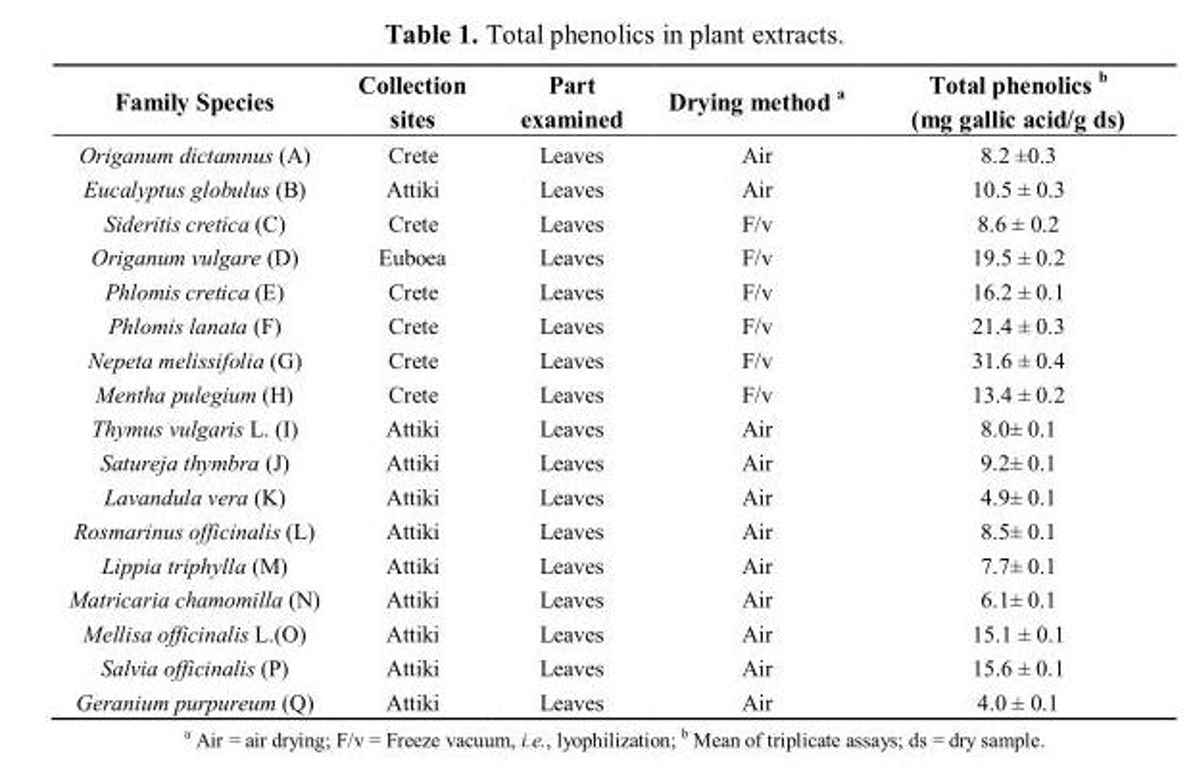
<table><thead><tr><td>Family Species</td><td>Collection sites</td><td>Part examined</td><td>Drying method <sup>a</sup></td><td>Total phenolics <sup>b</sup> (mg gallic acid/g ds)</td></tr></thead><tbody><tr><td>Origanum dictamnus (A)</td><td>Crete</td><td>Leaves</td><td>Air</td><td>8.2 ±0.3</td></tr><tr><td>Eucalyptus globulus (B)</td><td>Attiki</td><td>Leaves</td><td>Air</td><td>10.5 ± 0.3</td></tr><tr><td>Sideritis cretica (C)</td><td>Crete</td><td>Leaves</td><td>F/v</td><td>8.6 ± 0.2</td></tr><tr><td>Origanum vulgare (D)</td><td>Euboea</td><td>Leaves</td><td>F/v</td><td>19.5 ± 0.2</td></tr><tr><td>Phlomis cretica (E)</td><td>Crete</td><td>Leaves</td><td>F/v</td><td>16.2 ± 0.1</td></tr><tr><td>Phlomis lanata (F)</td><td>Crete</td><td>Leaves</td><td>F/v</td><td>21.4 ± 0.3</td></tr><tr><td>Nepeta melissifolia (G)</td><td>Crete</td><td>Leaves</td><td>F/v</td><td>31.6 ± 0.4</td></tr><tr><td>Mentha pulegium (H)</td><td>Crete</td><td>Leaves</td><td>F/v</td><td>13.4 ± 0.2</td></tr><tr><td>Thymus vulgaris L. (I)</td><td>Attiki</td><td>Leaves</td><td>Air</td><td>8.0± 0.1</td></tr><tr><td>Satureja thymbra (J)</td><td>Attiki</td><td>Leaves</td><td>Air</td><td>9.2± 0.1</td></tr><tr><td>Lavandula vera (K)</td><td>Attiki</td><td>Leaves</td><td>Air</td><td>4.9± 0.1</td></tr><tr><td>Rosmarinus officinalis (L)</td><td>Attiki</td><td>Leaves</td><td>Air</td><td>8.5± 0.1</td></tr><tr><td>Lippia triphylla (M)</td><td>Attiki</td><td>Leaves</td><td>Air</td><td>7.7± 0.1</td></tr><tr><td>Matricaria chamomilla (N)</td><td>Attiki</td><td>Leaves</td><td>Air</td><td>6.1± 0.1</td></tr><tr><td>Mellisa officinalis L.(O)</td><td>Attiki</td><td>Leaves</td><td>Air</td><td>15.1 ± 0.1</td></tr><tr><td>Salvia officinalis (P)</td><td>Attiki</td><td>Leaves</td><td>Air</td><td>15.6 ± 0.1</td></tr><tr><td>Geranium purpureum (Q)</td><td>Attiki</td><td>Leaves</td><td>Air</td><td>4.0 ± 0.1</td></tr></tbody></table>